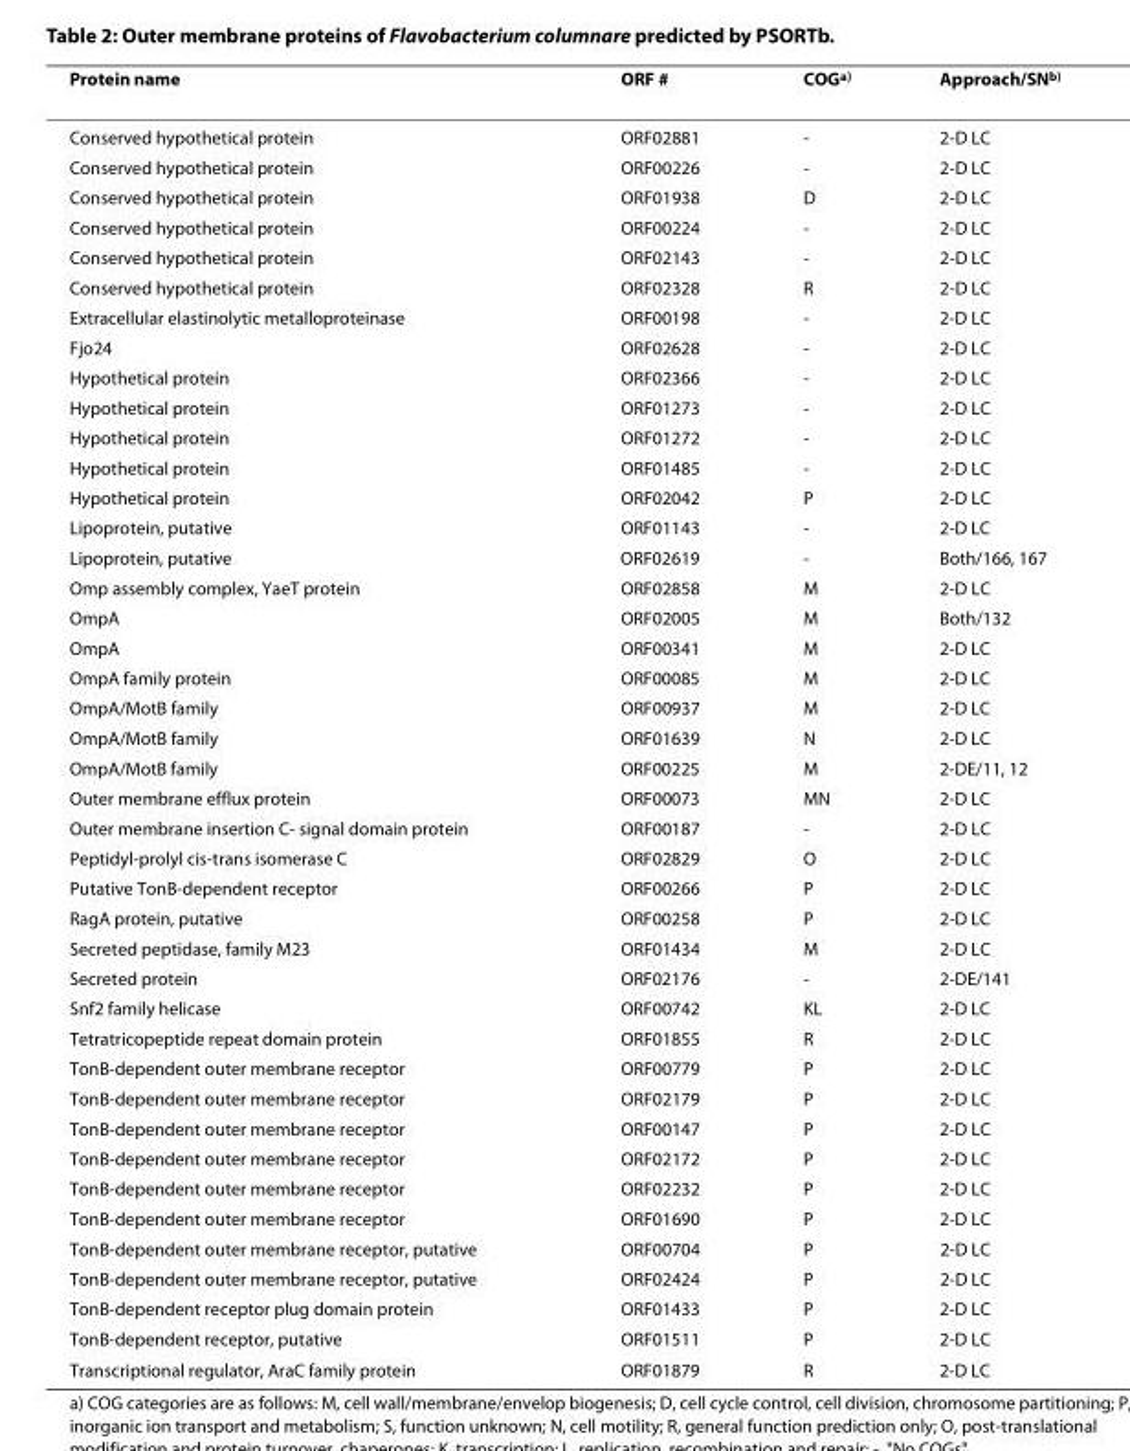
<table><thead><tr><td>Protein name</td><td>ORF #</td><td>COG<sup>a)</sup></td><td>Approach/SN<sup>b)</sup></td></tr></thead><tbody><tr><td>Conserved hypothetical protein</td><td>ORF02881</td><td>-</td><td>2-D LC</td></tr><tr><td>Conserved hypothetical protein</td><td>ORF00226</td><td>-</td><td>2-D LC</td></tr><tr><td>Conserved hypothetical protein</td><td>ORF01938</td><td>D</td><td>2-D LC</td></tr><tr><td>Conserved hypothetical protein</td><td>ORF00224</td><td>-</td><td>2-D LC</td></tr><tr><td>Conserved hypothetical protein</td><td>ORF02143</td><td>-</td><td>2-D LC</td></tr><tr><td>Conserved hypothetical protein</td><td>ORF02328</td><td>R</td><td>2-D LC</td></tr><tr><td>Extracellular elastinolytic metalloproteinase</td><td>ORF00198</td><td>-</td><td>2-D LC</td></tr><tr><td>Fjo24</td><td>ORF02628</td><td>-</td><td>2-D LC</td></tr><tr><td>Hypothetical protein</td><td>ORF02366</td><td>-</td><td>2-D LC</td></tr><tr><td>Hypothetical protein</td><td>ORF01273</td><td>-</td><td>2-D LC</td></tr><tr><td>Hypothetical protein</td><td>ORF01272</td><td>-</td><td>2-D LC</td></tr><tr><td>Hypothetical protein</td><td>ORF01485</td><td>-</td><td>2-D LC</td></tr><tr><td>Hypothetical protein</td><td>ORF02042</td><td>P</td><td>2-D LC</td></tr><tr><td>Lipoprotein, putative</td><td>ORF01143</td><td>-</td><td>2-D LC</td></tr><tr><td>Lipoprotein, putative</td><td>ORF02619</td><td>-</td><td>Both/166, 167</td></tr><tr><td>Omp assembly complex, YaeT protein</td><td>ORF02858</td><td>M</td><td>2-D LC</td></tr><tr><td>OmpA</td><td>ORF02005</td><td>M</td><td>Both/132</td></tr><tr><td>OmpA</td><td>ORF00341</td><td>M</td><td>2-D LC</td></tr><tr><td>OmpA family protein</td><td>ORF00085</td><td>M</td><td>2-D LC</td></tr><tr><td>OmpA/MotB family</td><td>ORF00937</td><td>M</td><td>2-D LC</td></tr><tr><td>OmpA/MotB family</td><td>ORF01639</td><td>N</td><td>2-D LC</td></tr><tr><td>OmpA/MotB family</td><td>ORF00225</td><td>M</td><td>2-DE/11, 12</td></tr><tr><td>Outer membrane efflux protein</td><td>ORF00073</td><td>MN</td><td>2-D LC</td></tr><tr><td>Outer membrane insertion C- signal domain protein</td><td>ORF00187</td><td>-</td><td>2-D LC</td></tr><tr><td>Peptidyl-prolyl cis-trans isomerase C</td><td>ORF02829</td><td>O</td><td>2-D LC</td></tr><tr><td>Putative TonB-dependent receptor</td><td>ORF00266</td><td>P</td><td>2-D LC</td></tr><tr><td>RagA protein, putative</td><td>ORF00258</td><td>P</td><td>2-D LC</td></tr><tr><td>Secreted peptidase, family M23</td><td>ORF01434</td><td>M</td><td>2-D LC</td></tr><tr><td>Secreted protein</td><td>ORF02176</td><td>-</td><td>2-DE/141</td></tr><tr><td>Snf2 family helicase</td><td>ORF00742</td><td>KL</td><td>2-D LC</td></tr><tr><td>Tetratricopeptide repeat domain protein</td><td>ORF01855</td><td>R</td><td>2-D LC</td></tr><tr><td>TonB-dependent outer membrane receptor</td><td>ORF00779</td><td>P</td><td>2-D LC</td></tr><tr><td>TonB-dependent outer membrane receptor</td><td>ORF02179</td><td>P</td><td>2-D LC</td></tr><tr><td>TonB-dependent outer membrane receptor</td><td>ORF00147</td><td>P</td><td>2-D LC</td></tr><tr><td>TonB-dependent outer membrane receptor</td><td>ORF02172</td><td>P</td><td>2-D LC</td></tr><tr><td>TonB-dependent outer membrane receptor</td><td>ORF02232</td><td>P</td><td>2-D LC</td></tr><tr><td>TonB-dependent outer membrane receptor</td><td>ORF01690</td><td>P</td><td>2-D LC</td></tr><tr><td>TonB-dependent outer membrane receptor, putative</td><td>ORF00704</td><td>P</td><td>2-D LC</td></tr><tr><td>TonB-dependent outer membrane receptor, putative</td><td>ORF02424</td><td>P</td><td>2-D LC</td></tr><tr><td>TonB-dependent receptor plug domain protein</td><td>ORF01433</td><td>P</td><td>2-D LC</td></tr><tr><td>TonB-dependent receptor, putative</td><td>ORF01511</td><td>P</td><td>2-D LC</td></tr><tr><td>Transcriptional regulator, AraC family protein</td><td>ORF01879</td><td>R</td><td>2-D LC</td></tr></tbody></table>